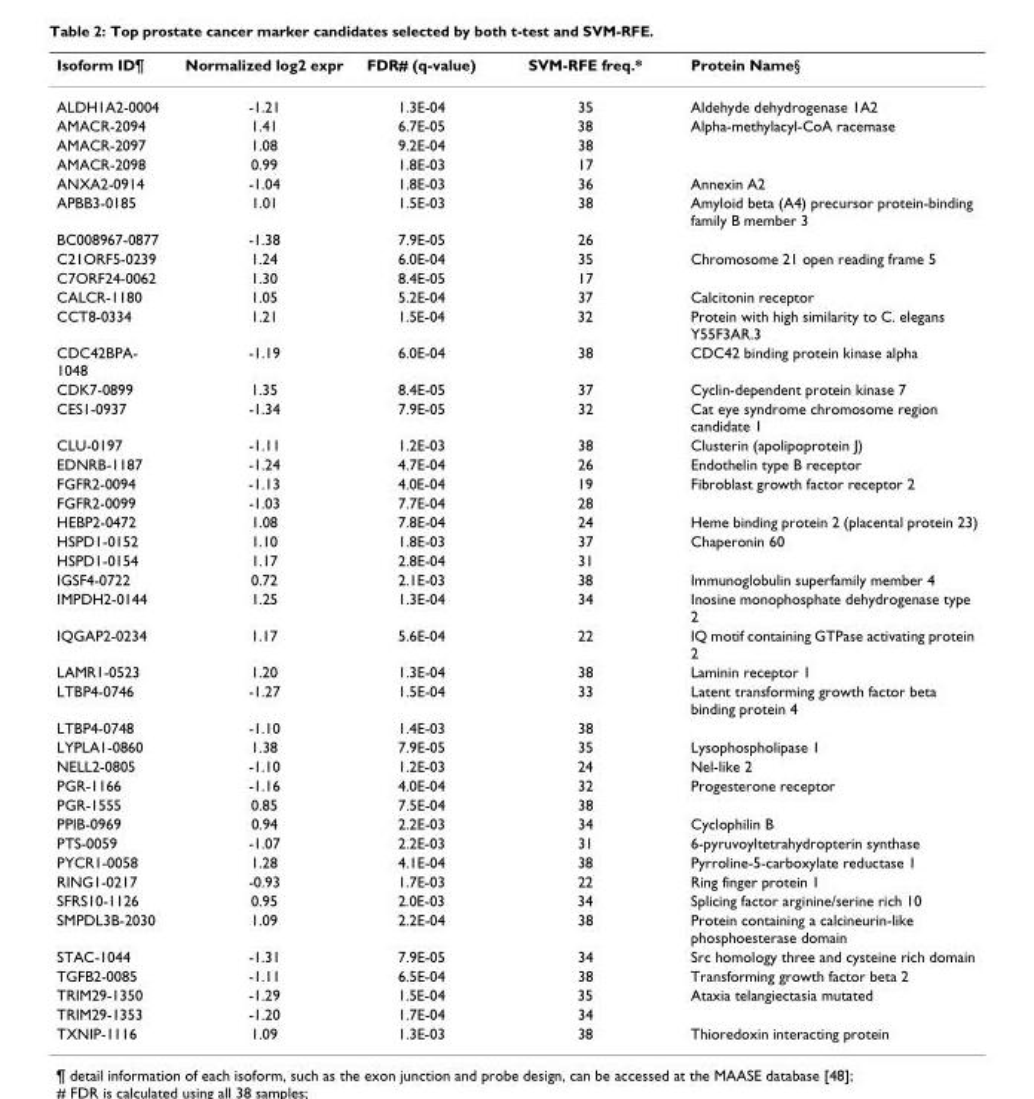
<table><thead><tr><td>Isoform ID¶</td><td>Normalized log2 expr</td><td>FDR# (q-value)</td><td>SVM-RFE freq.*</td><td>Protein Name§</td></tr></thead><tbody><tr><td>ALDH1A2-0004</td><td>-1.21</td><td>1.3E-04</td><td>35</td><td>Aldehyde dehydrogenase 1A2</td></tr><tr><td>AMACR-2094</td><td>1.41</td><td>6.7E-05</td><td>38</td><td>Alpha-methylacyl-CoA racemase</td></tr><tr><td>AMACR-2097</td><td>1.08</td><td>9.2E-04</td><td>38</td><td></td></tr><tr><td>AMACR-2098</td><td>0.99</td><td>1.8E-03</td><td>17</td><td></td></tr><tr><td>ANXA2-0914</td><td>-1.04</td><td>1.8E-03</td><td>36</td><td>Annexin A2</td></tr><tr><td>APBB3-0185</td><td>1.01</td><td>1.5E-03</td><td>38</td><td>Amyloid beta (A4) precursor protein-binding family B member 3</td></tr><tr><td>BC008967-0877</td><td>-1.38</td><td>7.9E-05</td><td>26</td><td></td></tr><tr><td>C21ORF5-0239</td><td>1.24</td><td>6.0E-04</td><td>35</td><td>Chromosome 21 open reading frame 5</td></tr><tr><td>C7ORF24-0062</td><td>1.30</td><td>8.4E-05</td><td>17</td><td></td></tr><tr><td>CALCR-1180</td><td>1.05</td><td>5.2E-04</td><td>37</td><td>Calcitonin receptor</td></tr><tr><td>CCT8-0334</td><td>1.21</td><td>1.5E-04</td><td>32</td><td>Protein with high similarity to C. elegans Y55F3AR.3</td></tr><tr><td>CDC42BPA- 1048</td><td>-1.19</td><td>6.0E-04</td><td>38</td><td>CDC42 binding protein kinase alpha</td></tr><tr><td>CDK7-0899</td><td>1.35</td><td>8.4E-05</td><td>37</td><td>Cyclin-dependent protein kinase 7</td></tr><tr><td>CES1-0937</td><td>-1.34</td><td>7.9E-05</td><td>32</td><td>Cat eye syndrome chromosome region candidate 1</td></tr><tr><td>CLU-0197</td><td>-1.11</td><td>1.2E-03</td><td>38</td><td>Clusterin (apolipoprotein J)</td></tr><tr><td>EDNRB-1187</td><td>-1.24</td><td>4.7E-04</td><td>26</td><td>Endothelin type B receptor</td></tr><tr><td>FGFR2-0094</td><td>-1.13</td><td>4.0E-04</td><td>19</td><td>Fibroblast growth factor receptor 2</td></tr><tr><td>FGFR2-0099</td><td>-1.03</td><td>7.7E-04</td><td>28</td><td></td></tr><tr><td>HEBP2-0472</td><td>1.08</td><td>7.8E-04</td><td>24</td><td>Heme binding protein 2 (placental protein 23)</td></tr><tr><td>HSPD1-0152</td><td>1.10</td><td>1.8E-03</td><td>37</td><td>Chaperonin 60</td></tr><tr><td>HSPD1-0154</td><td>1.17</td><td>2.8E-04</td><td>31</td><td></td></tr><tr><td>IGSF4-0722</td><td>0.72</td><td>2.1E-03</td><td>38</td><td>Immunoglobulin superfamily member 4</td></tr><tr><td>IMPDH2-0144</td><td>1.25</td><td>1.3E-04</td><td>34</td><td>Inosine monophosphate dehydrogenase type 2</td></tr><tr><td>IQGAP2-0234</td><td>1.17</td><td>5.6E-04</td><td>22</td><td>IQ motif containing GTPase activating protein 2</td></tr><tr><td>LAMR1-0523</td><td>1.20</td><td>1.3E-04</td><td>38</td><td>Laminin receptor 1</td></tr><tr><td>LTBP4-0746</td><td>-1.27</td><td>1.5E-04</td><td>33</td><td>Latent transforming growth factor beta binding protein 4</td></tr><tr><td>LTBP4-0748</td><td>-1.10</td><td>1.4E-03</td><td>38</td><td></td></tr><tr><td>LYPLA1-0860</td><td>1.38</td><td>7.9E-05</td><td>35</td><td>Lysophospholipase 1</td></tr><tr><td>NELL2-0805</td><td>-1.10</td><td>1.2E-03</td><td>24</td><td>Nel-like 2</td></tr><tr><td>PGR-1166</td><td>-1.16</td><td>4.0E-04</td><td>32</td><td>Progesterone receptor</td></tr><tr><td>PGR-1555</td><td>0.85</td><td>7.5E-04</td><td>38</td><td></td></tr><tr><td>PPIB-0969</td><td>0.94</td><td>2.2E-03</td><td>34</td><td>Cyclophilin B</td></tr><tr><td>PTS-0059</td><td>-1.07</td><td>2.2E-03</td><td>31</td><td>6-pyruvoyltetrahydropterin synthase</td></tr><tr><td>PYCR1-0058</td><td>1.28</td><td>4.1E-04</td><td>38</td><td>Pyrroline-5-carboxylate reductase 1</td></tr><tr><td>RING1-0217</td><td>-0.93</td><td>1.7E-03</td><td>22</td><td>Ring finger protein 1</td></tr><tr><td>SFRS10-1126</td><td>0.95</td><td>2.0E-03</td><td>34</td><td>Splicing factor arginine/serine rich 10</td></tr><tr><td>SMPDL3B-2030</td><td>1.09</td><td>2.2E-04</td><td>38</td><td>Protein containing a calcineurin-like phosphoesterase domain</td></tr><tr><td>STAC-1044</td><td>-1.31</td><td>7.9E-05</td><td>34</td><td>Src homology three and cysteine rich domain</td></tr><tr><td>TGFB2-0085</td><td>-1.11</td><td>6.5E-04</td><td>38</td><td>Transforming growth factor beta 2</td></tr><tr><td>TRIM29-1350</td><td>-1.29</td><td>1.5E-04</td><td>35</td><td>Ataxia telangiectasia mutated</td></tr><tr><td>TRIM29-1353</td><td>-1.20</td><td>1.7E-04</td><td>34</td><td></td></tr><tr><td>TXNIP-1116</td><td>1.09</td><td>1.3E-03</td><td>38</td><td>Thioredoxin interacting protein</td></tr></tbody></table>